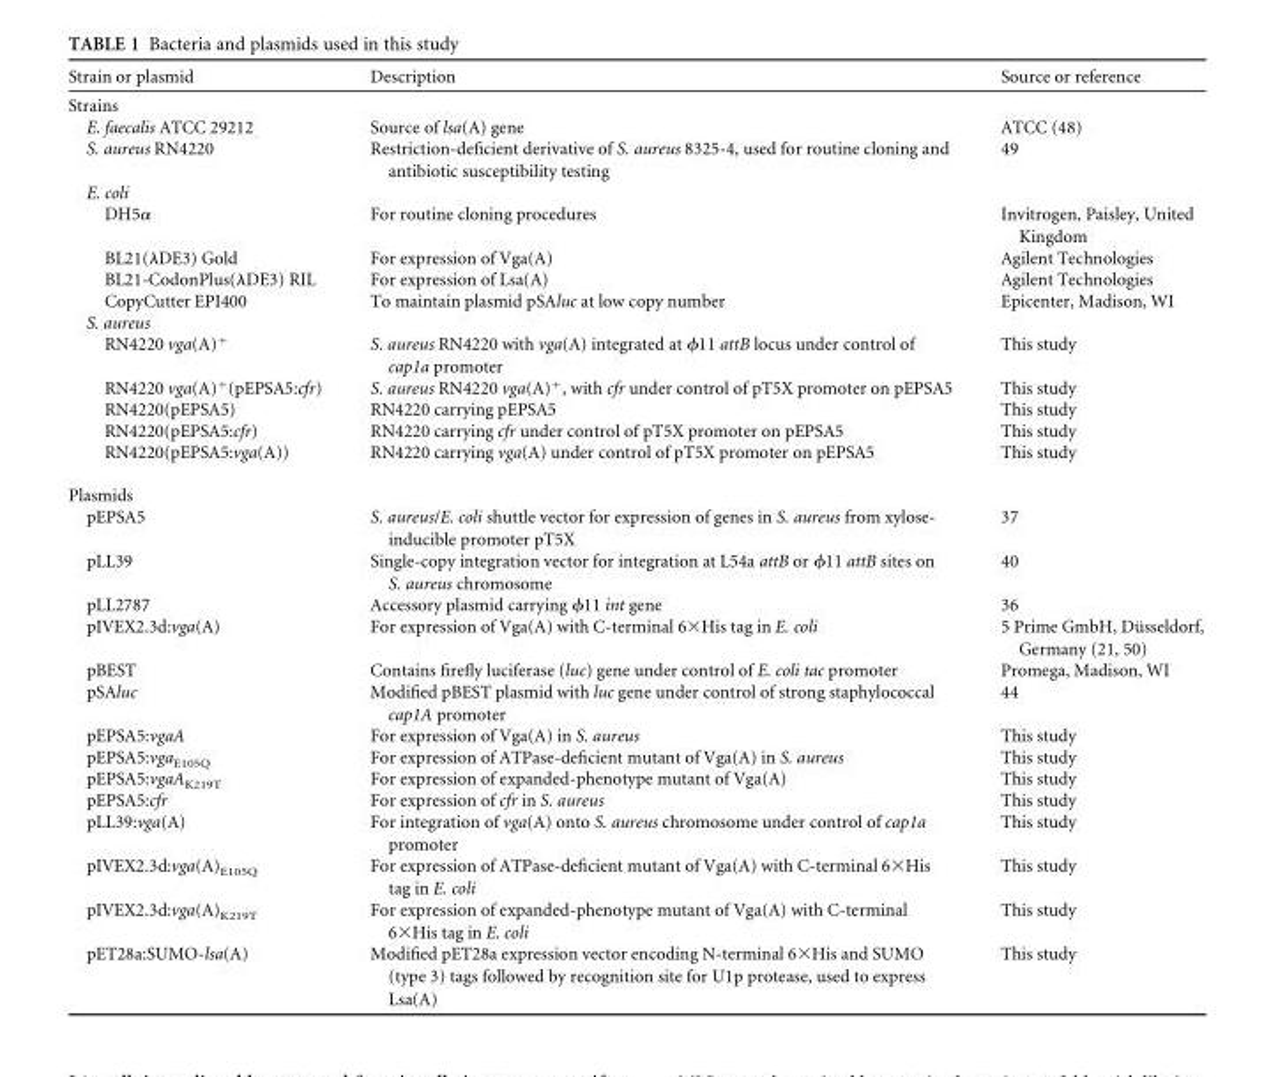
<table><thead><tr><td>Strain or plasmid</td><td>Description</td><td>Source or reference</td></tr></thead><tbody><tr><td colspan="3">Strains</td></tr><tr><td>E. faecalis ATCC 29212</td><td>Source of lsa(A) gene</td><td>ATCC (48)</td></tr><tr><td>S. aureus RN4220</td><td>Restriction-deficient derivative of S. aureus 8325-4, used for routine cloning and antibiotic susceptibility testing</td><td>49</td></tr><tr><td colspan="3">E. coli</td></tr><tr><td>DH5α</td><td>For routine cloning procedures</td><td>Invitrogen, Paisley, United Kingdom</td></tr><tr><td>BL21(λDE3) Gold</td><td>For expression of Vga(A)</td><td>Agilent Technologies</td></tr><tr><td>BL21-CodonPlus(λDE3) RIL</td><td>For expression of Lsa(A)</td><td>Agilent Technologies</td></tr><tr><td>CopyCutter EPI400</td><td>To maintain plasmid pSAluc at low copy number</td><td>Epicenter, Madison, WI</td></tr><tr><td colspan="3">S. aureus</td></tr><tr><td>RN4220 vga(A)<sup>+</sup></td><td>S. aureus RN4220 with vga(A) integrated at ϕ11 attB locus under control of cap1a promoter</td><td>This study</td></tr><tr><td>RN4220 vga(A)<sup>+</sup>(pEPSA5:cfr)</td><td>S. aureus RN4220 vga(A)<sup>+</sup>, with cfr under control of pT5X promoter on pEPSA5</td><td>This study</td></tr><tr><td>RN4220(pEPSA5)</td><td>RN4220 carrying pEPSA5</td><td>This study</td></tr><tr><td>RN4220(pEPSA5:cfr)</td><td>RN4220 carrying cfr under control of pT5X promoter on pEPSA5</td><td>This study</td></tr><tr><td>RN4220(pEPSA5:vga(A))</td><td>RN4220 carrying vga(A) under control of pT5X promoter on pEPSA5</td><td>This study</td></tr><tr><td colspan="3">Plasmids</td></tr><tr><td>pEPSA5</td><td>S. aureus/E. coli shuttle vector for expression of genes in S. aureus from xylose- inducible promoter pT5X</td><td>37</td></tr><tr><td>pLL39</td><td>Single-copy integration vector for integration at L54a attB or ϕ11 attB sites on S. aureus chromosome</td><td>40</td></tr><tr><td>pLL2787</td><td>Accessory plasmid carrying ϕ11 int gene</td><td>36</td></tr><tr><td>pIVEX2.3d:vga(A)</td><td>For expression of Vga(A) with C-terminal 6×His tag in E. coli</td><td>5 Prime GmbH, Düsseldorf, Germany (21, 50)</td></tr><tr><td>pBEST</td><td>Contains firefly luciferase (luc) gene under control of E. coli tac promoter</td><td>Promega, Madison, WI</td></tr><tr><td>pSAluc</td><td>Modified pBEST plasmid with luc gene under control of strong staphylococcal cap1A promoter</td><td>44</td></tr><tr><td>pEPSA5:vgaA</td><td>For expression of Vga(A) in S. aureus</td><td>This study</td></tr><tr><td>pEPSA5:vga<sub>E105Q</sub></td><td>For expression of ATPase-deficient mutant of Vga(A) in S. aureus</td><td>This study</td></tr><tr><td>pEPSA5:vgaA<sub>K219T</sub></td><td>For expression of expanded-phenotype mutant of Vga(A)</td><td>This study</td></tr><tr><td>pEPSA5:cfr</td><td>For expression of cfr in S. aureus</td><td>This study</td></tr><tr><td>pLL39:vga(A)</td><td>For integration of vga(A) onto S. aureus chromosome under control of cap1a promoter</td><td>This study</td></tr><tr><td>pIVEX2.3d:vga(A)<sub>E105Q</sub></td><td>For expression of ATPase-deficient mutant of Vga(A) with C-terminal 6×His tag in E. coli</td><td>This study</td></tr><tr><td>pIVEX2.3d:vga(A)<sub>K219T</sub></td><td>For expression of expanded-phenotype mutant of Vga(A) with C-terminal 6×His tag in E. coli</td><td>This study</td></tr><tr><td>pET28a:SUMO-lsa(A)</td><td>Modified pET28a expression vector encoding N-terminal 6×His and SUMO (type 3) tags followed by recognition site for U1p protease, used to express Lsa(A)</td><td>This study</td></tr></tbody></table>